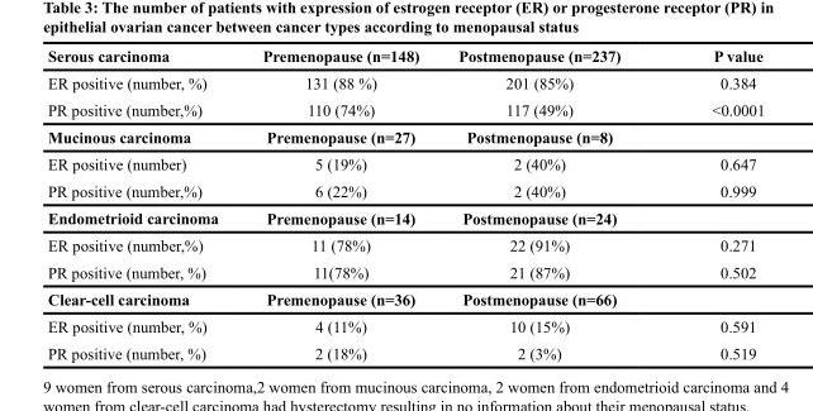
<table><thead><tr><td>Serous carcinoma</td><td>Premenopause (n=148)</td><td>Postmenopause (n=237)</td><td>P value</td></tr></thead><tbody><tr><td>ER positive (number, %)</td><td>131 (88 %)</td><td>201 (85%)</td><td>0.384</td></tr><tr><td>PR positive (number,%)</td><td>110 (74%)</td><td>117 (49%)</td><td>&lt;0.0001</td></tr><tr><td>Mucinous carcinoma</td><td>Premenopause (n=27)</td><td>Postmenopause (n=8)</td><td></td></tr><tr><td>ER positive (number)</td><td>5 (19%)</td><td>2 (40%)</td><td>0.647</td></tr><tr><td>PR positive (number,%)</td><td>6 (22%)</td><td>2 (40%)</td><td>0.999</td></tr><tr><td>Endometrioid carcinoma</td><td>Premenopause (n=14)</td><td>Postmenopause (n=24)</td><td></td></tr><tr><td>ER positive (number,%)</td><td>11 (78%)</td><td>22 (91%)</td><td>0.271</td></tr><tr><td>PR positive (number, %)</td><td>11(78%)</td><td>21 (87%)</td><td>0.502</td></tr><tr><td>Clear-cell carcinoma</td><td>Premenopause (n=36)</td><td>Postmenopause (n=66)</td><td></td></tr><tr><td>ER positive (number, %)</td><td>4 (11%)</td><td>10 (15%)</td><td>0.591</td></tr><tr><td>PR positive (number, %)</td><td>2 (18%)</td><td>2 (3%)</td><td>0.519</td></tr></tbody></table>